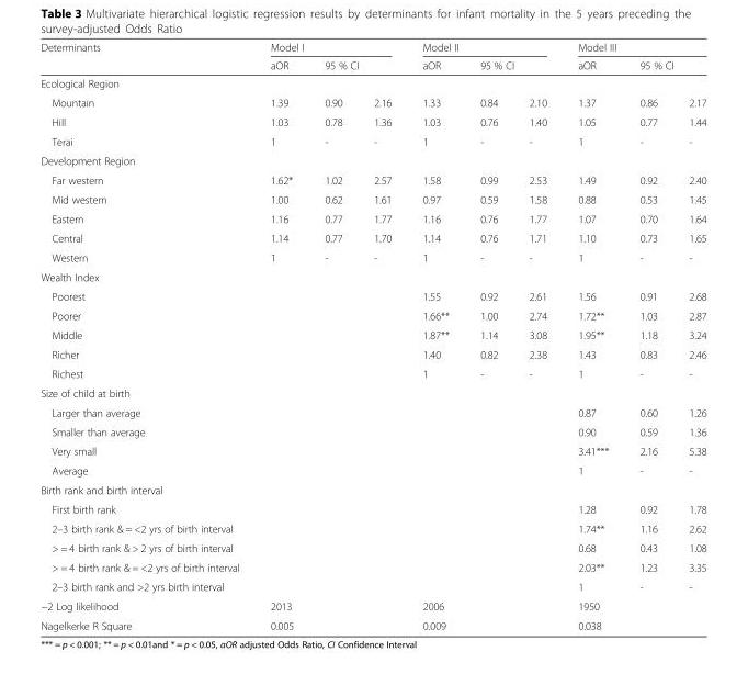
<table><thead><tr><td rowspan="3">Determinants Ecological Region</td><td colspan="3">Model I</td><td colspan="3">Model II</td><td colspan="3">Model III</td></tr><tr><td rowspan="2">aOR</td><td colspan="2">95 % CI</td><td rowspan="2">aOR</td><td colspan="2">95 % CI</td><td rowspan="2">aOR</td><td colspan="2">95 % CI</td></tr><tr><td></td><td></td><td></td><td></td><td></td><td></td></tr></thead><tbody><tr><td>Mountain</td><td>1.39</td><td>0.90</td><td>2.16</td><td>1.33</td><td>0.84</td><td>2.10</td><td>1.37</td><td>0.86</td><td>2.17</td></tr><tr><td>Hill</td><td>1.03</td><td>0.78</td><td>1.36</td><td>1.03</td><td>0.76</td><td>1.40</td><td>1.05</td><td>0.77</td><td>1.44</td></tr><tr><td>Terai</td><td>1</td><td>-</td><td>-</td><td>1</td><td>-</td><td>-</td><td>1</td><td>-</td><td>-</td></tr><tr><td colspan="10">Development Region</td></tr><tr><td>Far western</td><td>1.62*</td><td>1.02</td><td>2.57</td><td>1.58</td><td>0.99</td><td>2.53</td><td>1.49</td><td>0.92</td><td>2.40</td></tr><tr><td>Mid western</td><td>1.00</td><td>0.62</td><td>1.61</td><td>0.97</td><td>0.59</td><td>1.58</td><td>0.88</td><td>0.53</td><td>1.45</td></tr><tr><td>Eastern</td><td>1.16</td><td>0.77</td><td>1.77</td><td>1.16</td><td>0.76</td><td>1.77</td><td>1.07</td><td>0.70</td><td>1.64</td></tr><tr><td>Central</td><td>1.14</td><td>0.77</td><td>1.70</td><td>1.14</td><td>0.76</td><td>1.71</td><td>1.10</td><td>0.73</td><td>1.65</td></tr><tr><td>Western</td><td>1</td><td>-</td><td>-</td><td>1</td><td>-</td><td>-</td><td>1</td><td>-</td><td>-</td></tr><tr><td colspan="10">Wealth Index</td></tr><tr><td>Poorest</td><td></td><td></td><td></td><td>1.55</td><td>0.92</td><td>2.61</td><td>1.56</td><td>0.91</td><td>2.68</td></tr><tr><td>Poorer</td><td></td><td></td><td></td><td>1.66**</td><td>1.00</td><td>2.74</td><td>1.72**</td><td>1.03</td><td>2.87</td></tr><tr><td>Middle</td><td></td><td></td><td></td><td>1.87**</td><td>1.14</td><td>3.08</td><td>1.95**</td><td>1.18</td><td>3.24</td></tr><tr><td>Richer</td><td></td><td></td><td></td><td>1.40</td><td>0.82</td><td>2.38</td><td>1.43</td><td>0.83</td><td>2.46</td></tr><tr><td>Richest</td><td></td><td></td><td></td><td>1</td><td>-</td><td>-</td><td>1</td><td>-</td><td>-</td></tr><tr><td colspan="10">Size of child at birth</td></tr><tr><td>Larger than average</td><td></td><td></td><td></td><td></td><td></td><td></td><td>0.87</td><td>0.60</td><td>1.26</td></tr><tr><td>Smaller than average</td><td></td><td></td><td></td><td></td><td></td><td></td><td>0.90</td><td>0.59</td><td>1.36</td></tr><tr><td>Very small</td><td></td><td></td><td></td><td></td><td></td><td></td><td>3.41***</td><td>2.16</td><td>5.38</td></tr><tr><td>Average</td><td></td><td></td><td></td><td></td><td></td><td></td><td>1</td><td>-</td><td>-</td></tr><tr><td colspan="10">Birth rank and birth interval</td></tr><tr><td>First birth rank</td><td></td><td></td><td></td><td></td><td></td><td></td><td>1.28</td><td>0.92</td><td>1.78</td></tr><tr><td>2–3 birth rank &amp; = &lt;2 yrs of birth interval</td><td></td><td></td><td></td><td></td><td></td><td></td><td>1.74**</td><td>1.16</td><td>2.62</td></tr><tr><td>&gt; = 4 birth rank &amp; &gt; 2 yrs of birth interval</td><td></td><td></td><td></td><td></td><td></td><td></td><td>0.68</td><td>0.43</td><td>1.08</td></tr><tr><td>&gt; = 4 birth rank &amp; = &lt;2 yrs of birth interval</td><td></td><td></td><td></td><td></td><td></td><td></td><td>2.03**</td><td>1.23</td><td>3.35</td></tr><tr><td>2–3 birth rank and &gt;2 yrs birth interval</td><td></td><td></td><td></td><td></td><td></td><td></td><td>1</td><td>-</td><td>-</td></tr><tr><td>−2 Log likelihood</td><td>2013</td><td></td><td></td><td>2006</td><td></td><td></td><td>1950</td><td></td><td></td></tr><tr><td>Nagelkerke R Square</td><td>0.005</td><td></td><td></td><td>0.009</td><td></td><td></td><td>0.038</td><td></td><td></td></tr></tbody></table>